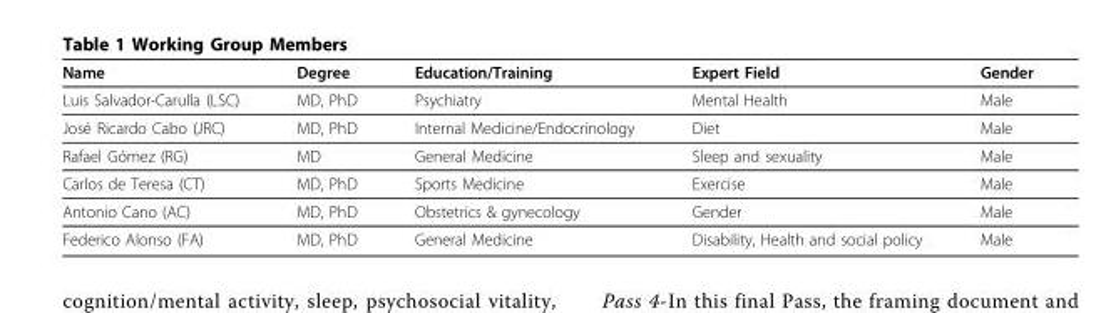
<table><thead><tr><td>Name</td><td>Degree</td><td>Education/Training</td><td>Expert Field</td><td>Gender</td></tr></thead><tbody><tr><td>Luis Salvador-Carulla (LSC)</td><td>MD, PhD</td><td>Psychiatry</td><td>Mental Health</td><td>Male</td></tr><tr><td>José Ricardo Cabo (JRC)</td><td>MD, PhD</td><td>Internal Medicine/Endocrinology</td><td>Diet</td><td>Male</td></tr><tr><td>Rafael Gómez (RG)</td><td>MD</td><td>General Medicine</td><td>Sleep and sexuality</td><td>Male</td></tr><tr><td>Carlos de Teresa (CT)</td><td>MD, PhD</td><td>Sports Medicine</td><td>Exercise</td><td>Male</td></tr><tr><td>Antonio Cano (AC)</td><td>MD, PhD</td><td>Obstetrics &amp; gynecology</td><td>Gender</td><td>Male</td></tr><tr><td>Federico Alonso (FA)</td><td>MD, PhD</td><td>General Medicine</td><td>Disability, Health and social policy</td><td>Male</td></tr></tbody></table>